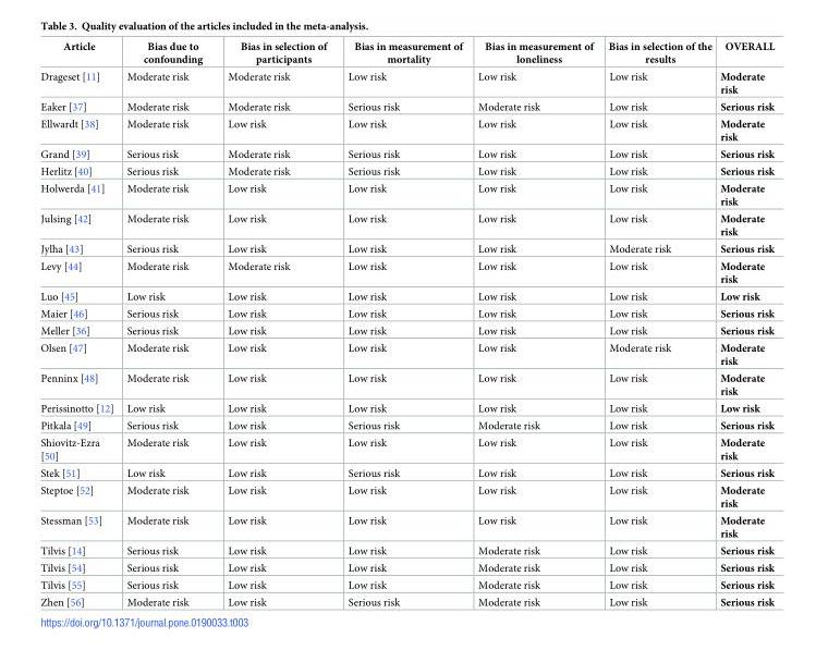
<table><thead><tr><td>Article</td><td>Bias due to confounding</td><td>Bias in selection of participants</td><td>Bias in measurement of mortality</td><td>Bias in measurement of loneliness</td><td>Bias in selection of the results</td><td>OVERALL</td></tr></thead><tbody><tr><td>Drageset [11]</td><td>Moderate risk</td><td>Moderate risk</td><td>Low risk</td><td>Low risk</td><td>Low risk</td><td>Moderate risk</td></tr><tr><td>Eaker [37]</td><td>Moderate risk</td><td>Moderate risk</td><td>Serious risk</td><td>Moderate risk</td><td>Low risk</td><td>Serious risk</td></tr><tr><td>Ellwardt [38]</td><td>Moderate risk</td><td>Low risk</td><td>Low risk</td><td>Low risk</td><td>Low risk</td><td>Moderate risk</td></tr><tr><td>Grand [39]</td><td>Serious risk</td><td>Moderate risk</td><td>Serious risk</td><td>Low risk</td><td>Low risk</td><td>Serious risk</td></tr><tr><td>Herlitz [40]</td><td>Serious risk</td><td>Moderate risk</td><td>Serious risk</td><td>Low risk</td><td>Low risk</td><td>Serious risk</td></tr><tr><td>Holwerda [41]</td><td>Moderate risk</td><td>Low risk</td><td>Low risk</td><td>Low risk</td><td>Low risk</td><td>Moderate risk</td></tr><tr><td>Julsing [42]</td><td>Moderate risk</td><td>Low risk</td><td>Low risk</td><td>Low risk</td><td>Low risk</td><td>Moderate risk</td></tr><tr><td>Jylha [43]</td><td>Serious risk</td><td>Low risk</td><td>Low risk</td><td>Low risk</td><td>Moderate risk</td><td>Serious risk</td></tr><tr><td>Levy [44]</td><td>Moderate risk</td><td>Moderate risk</td><td>Low risk</td><td>Low risk</td><td>Low risk</td><td>Moderate risk</td></tr><tr><td>Luo [45]</td><td>Low risk</td><td>Low risk</td><td>Low risk</td><td>Low risk</td><td>Low risk</td><td>Low risk</td></tr><tr><td>Maier [46]</td><td>Serious risk</td><td>Low risk</td><td>Low risk</td><td>Low risk</td><td>Low risk</td><td>Serious risk</td></tr><tr><td>Meller [36]</td><td>Serious risk</td><td>Low risk</td><td>Low risk</td><td>Low risk</td><td>Low risk</td><td>Serious risk</td></tr><tr><td>Olsen [47]</td><td>Moderate risk</td><td>Low risk</td><td>Low risk</td><td>Low risk</td><td>Moderate risk</td><td>Moderate risk</td></tr><tr><td>Penninx [48]</td><td>Moderate risk</td><td>Low risk</td><td>Low risk</td><td>Low risk</td><td>Low risk</td><td>Moderate risk</td></tr><tr><td>Perissinotto [12]</td><td>Low risk</td><td>Low risk</td><td>Low risk</td><td>Low risk</td><td>Low risk</td><td>Low risk</td></tr><tr><td>Pitkala [49]</td><td>Serious risk</td><td>Low risk</td><td>Serious risk</td><td>Moderate risk</td><td>Low risk</td><td>Serious risk</td></tr><tr><td>Shiovitz-Ezra [50]</td><td>Moderate risk</td><td>Low risk</td><td>Low risk</td><td>Low risk</td><td>Low risk</td><td>Moderate risk</td></tr><tr><td>Stek [51]</td><td>Low risk</td><td>Low risk</td><td>Serious risk</td><td>Low risk</td><td>Low risk</td><td>Serious risk</td></tr><tr><td>Steptoe [52]</td><td>Moderate risk</td><td>Low risk</td><td>Low risk</td><td>Low risk</td><td>Low risk</td><td>Moderate risk</td></tr><tr><td>Stessman [53]</td><td>Moderate risk</td><td>Low risk</td><td>Low risk</td><td>Low risk</td><td>Low risk</td><td>Moderate risk</td></tr><tr><td>Tilvis [14]</td><td>Serious risk</td><td>Low risk</td><td>Low risk</td><td>Moderate risk</td><td>Low risk</td><td>Serious risk</td></tr><tr><td>Tilvis [54]</td><td>Serious risk</td><td>Low risk</td><td>Low risk</td><td>Moderate risk</td><td>Low risk</td><td>Serious risk</td></tr><tr><td>Tilvis [55]</td><td>Serious risk</td><td>Low risk</td><td>Low risk</td><td>Moderate risk</td><td>Low risk</td><td>Serious risk</td></tr><tr><td>Zhen [56]</td><td>Moderate risk</td><td>Low risk</td><td>Serious risk</td><td>Moderate risk</td><td>Low risk</td><td>Serious risk</td></tr></tbody></table>